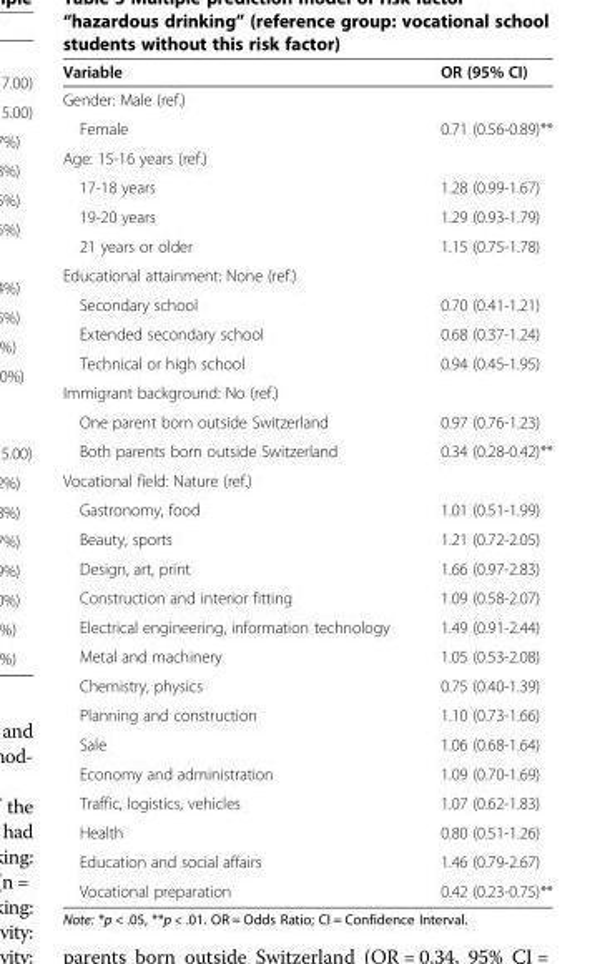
<table><thead><tr><td>Variable</td><td>OR (95% CI)</td></tr></thead><tbody><tr><td colspan="2">Gender: Male (ref.)</td></tr><tr><td>Female</td><td>0.71 (0.56-0.89)**</td></tr><tr><td colspan="2">Age: 15-16 years (ref.)</td></tr><tr><td>17-18 years</td><td>1.28 (0.99-1.67)</td></tr><tr><td>19-20 years</td><td>1.29 (0.93-1.79)</td></tr><tr><td>21 years or older</td><td>1.15 (0.75-1.78)</td></tr><tr><td colspan="2">Educational attainment: None (ref.)</td></tr><tr><td>Secondary school</td><td>0.70 (0.41-1.21)</td></tr><tr><td>Extended secondary school</td><td>0.68 (0.37-1.24)</td></tr><tr><td>Technical or high school</td><td>0.94 (0.45-1.95)</td></tr><tr><td colspan="2">Immigrant background: No (ref.)</td></tr><tr><td>One parent born outside Switzerland</td><td>0.97 (0.76-1.23)</td></tr><tr><td>Both parents born outside Switzerland</td><td>0.34 (0.28-0.42)**</td></tr><tr><td colspan="2">Vocational field: Nature (ref.)</td></tr><tr><td>Gastronomy, food</td><td>1.01 (0.51-1.99)</td></tr><tr><td>Beauty, sports</td><td>1.21 (0.72-2.05)</td></tr><tr><td>Design, art, print</td><td>1.66 (0.97-2.83)</td></tr><tr><td>Construction and interior fitting</td><td>1.09 (0.58-2.07)</td></tr><tr><td>Electrical engineering, information technology</td><td>1.49 (0.91-2.44)</td></tr><tr><td>Metal and machinery</td><td>1.05 (0.53-2.08)</td></tr><tr><td>Chemistry, physics</td><td>0.75 (0.40-1.39)</td></tr><tr><td>Planning and construction</td><td>1.10 (0.73-1.66)</td></tr><tr><td>Sale</td><td>1.06 (0.68-1.64)</td></tr><tr><td>Economy and administration</td><td>1.09 (0.70-1.69)</td></tr><tr><td>Traffic, logistics, vehicles</td><td>1.07 (0.62-1.83)</td></tr><tr><td>Health</td><td>0.80 (0.51-1.26)</td></tr><tr><td>Education and social affairs</td><td>1.46 (0.79-2.67)</td></tr><tr><td>Vocational preparation</td><td>0.42 (0.23-0.75)**</td></tr></tbody></table>